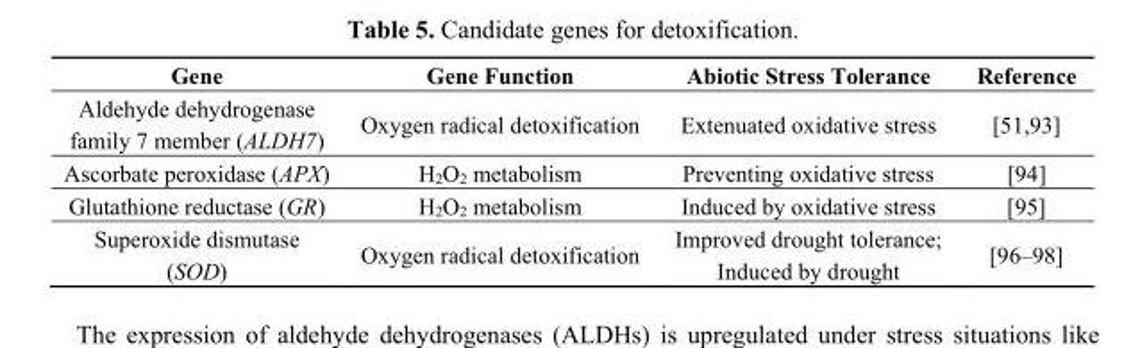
<table><thead><tr><td>Gene</td><td>Gene Function</td><td>Abiotic Stress Tolerance</td><td>Reference</td></tr></thead><tbody><tr><td>Aldehyde dehydrogenase family 7 member (ALDH7)</td><td>Oxygen radical detoxification</td><td>Extenuated oxidative stress</td><td>[51,93]</td></tr><tr><td>Ascorbate peroxidase (APX)</td><td>H<sub>2</sub>O<sub>2</sub> metabolism</td><td>Preventing oxidative stress</td><td>[94]</td></tr><tr><td>Glutathione reductase (GR)</td><td>H<sub>2</sub>O<sub>2</sub> metabolism</td><td>Induced by oxidative stress</td><td>[95]</td></tr><tr><td>Superoxide dismutase (SOD)</td><td>Oxygen radical detoxification</td><td>Improved drought tolerance; Induced by drought</td><td>[96–98]</td></tr></tbody></table>